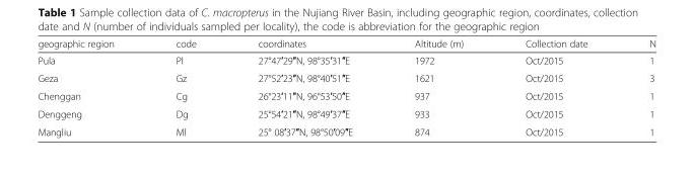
<table><thead><tr><td>geographic region</td><td>code</td><td>coordinates</td><td>Altitude (m)</td><td>Collection date</td><td>N</td></tr></thead><tbody><tr><td>Pula</td><td>Pl</td><td>27°47′29″N, 98°35′31″E</td><td>1972</td><td>Oct/2015</td><td>1</td></tr><tr><td>Geza</td><td>Gz</td><td>27°52′23″N, 98°40′51″E</td><td>1621</td><td>Oct/2015</td><td>3</td></tr><tr><td>Chenggan</td><td>Cg</td><td>26°23′11″N, 96°53′50″E</td><td>937</td><td>Oct/2015</td><td>1</td></tr><tr><td>Denggeng</td><td>Dg</td><td>25°54′21″N, 98°49′37″E</td><td>933</td><td>Oct/2015</td><td>1</td></tr><tr><td>Mangliu</td><td>Ml</td><td>25° 08′37″N, 98°50′09″E</td><td>874</td><td>Oct/2015</td><td>1</td></tr></tbody></table>